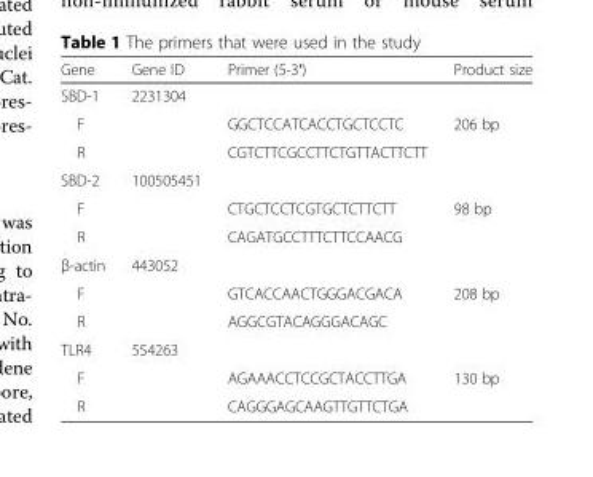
<table><thead><tr><td>Gene</td><td>Gene ID</td><td>Primer (5-3′)</td><td>Product size</td></tr></thead><tbody><tr><td>SBD-1</td><td>2231304</td><td></td><td></td></tr><tr><td>F</td><td></td><td>GGCTCCATCACCTGCTCCTC</td><td>206 bp</td></tr><tr><td>R</td><td></td><td>CGTCTTCGCCTTCTGTTACTTCTT</td><td></td></tr><tr><td>SBD-2</td><td>100505451</td><td></td><td></td></tr><tr><td>F</td><td></td><td>CTGCTCCTCGTGCTCTTCTT</td><td>98 bp</td></tr><tr><td>R</td><td></td><td>CAGATGCCTTTCTTCCAACG</td><td></td></tr><tr><td>β-actin</td><td>443052</td><td></td><td></td></tr><tr><td>F</td><td></td><td>GTCACCAACTGGGACGACA</td><td>208 bp</td></tr><tr><td>R</td><td></td><td>AGGCGTACAGGGACAGC</td><td></td></tr><tr><td>TLR4</td><td>554263</td><td></td><td></td></tr><tr><td>F</td><td></td><td>AGAAACCTCCGCTACCTTGA</td><td>130 bp</td></tr><tr><td>R</td><td></td><td>CAGGGAGCAAGTTGTTCTGA</td><td></td></tr></tbody></table>